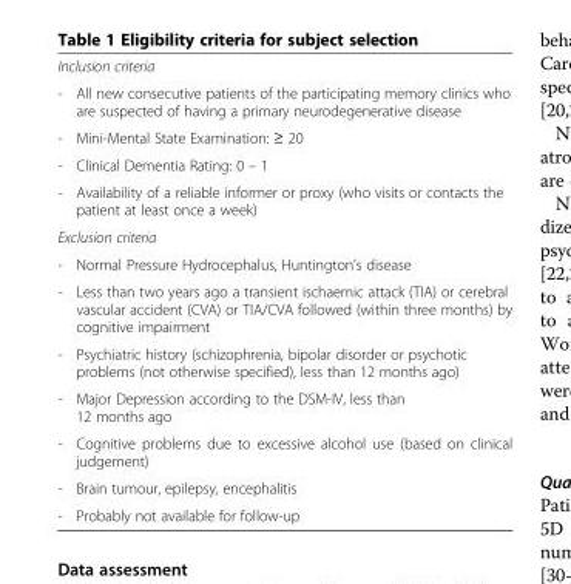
<table><tbody><tr><td colspan="2">Inclusion criteria</td></tr><tr><td>-</td><td>All new consecutive patients of the participating memory clinics who are suspected of having a primary neurodegenerative disease</td></tr><tr><td>-</td><td>Mini-Mental State Examination: ≥ 20</td></tr><tr><td>-</td><td>Clinical Dementia Rating: 0 – 1</td></tr><tr><td>-</td><td>Availability of a reliable informer or proxy (who visits or contacts the patient at least once a week)</td></tr><tr><td colspan="2">Exclusion criteria</td></tr><tr><td>-</td><td>Normal Pressure Hydrocephalus, Huntington’s disease</td></tr><tr><td>-</td><td>Less than two years ago a transient ischaemic attack (TIA) or cerebral vascular accident (CVA) or TIA/CVA followed (within three months) by cognitive impairment</td></tr><tr><td>-</td><td>Psychiatric history (schizophrenia, bipolar disorder or psychotic problems (not otherwise specified), less than 12 months ago)</td></tr><tr><td>-</td><td>Major Depression according to the DSM-IV, less than 12 months ago</td></tr><tr><td>-</td><td>Cognitive problems due to excessive alcohol use (based on clinical judgement)</td></tr><tr><td>-</td><td>Brain tumour, epilepsy, encephalitis</td></tr><tr><td>-</td><td>Probably not available for follow-up</td></tr></tbody></table>